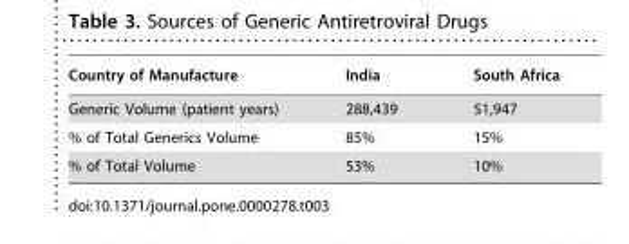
<table><thead><tr><td>Country of Manufacture</td><td>India</td><td>South Africa</td></tr></thead><tbody><tr><td>Generic Volume (patient years)</td><td>288,439</td><td>51,947</td></tr><tr><td>% of Total Generics Volume</td><td>85%</td><td>15%</td></tr><tr><td>% of Total Volume</td><td>53%</td><td>10%</td></tr></tbody></table>